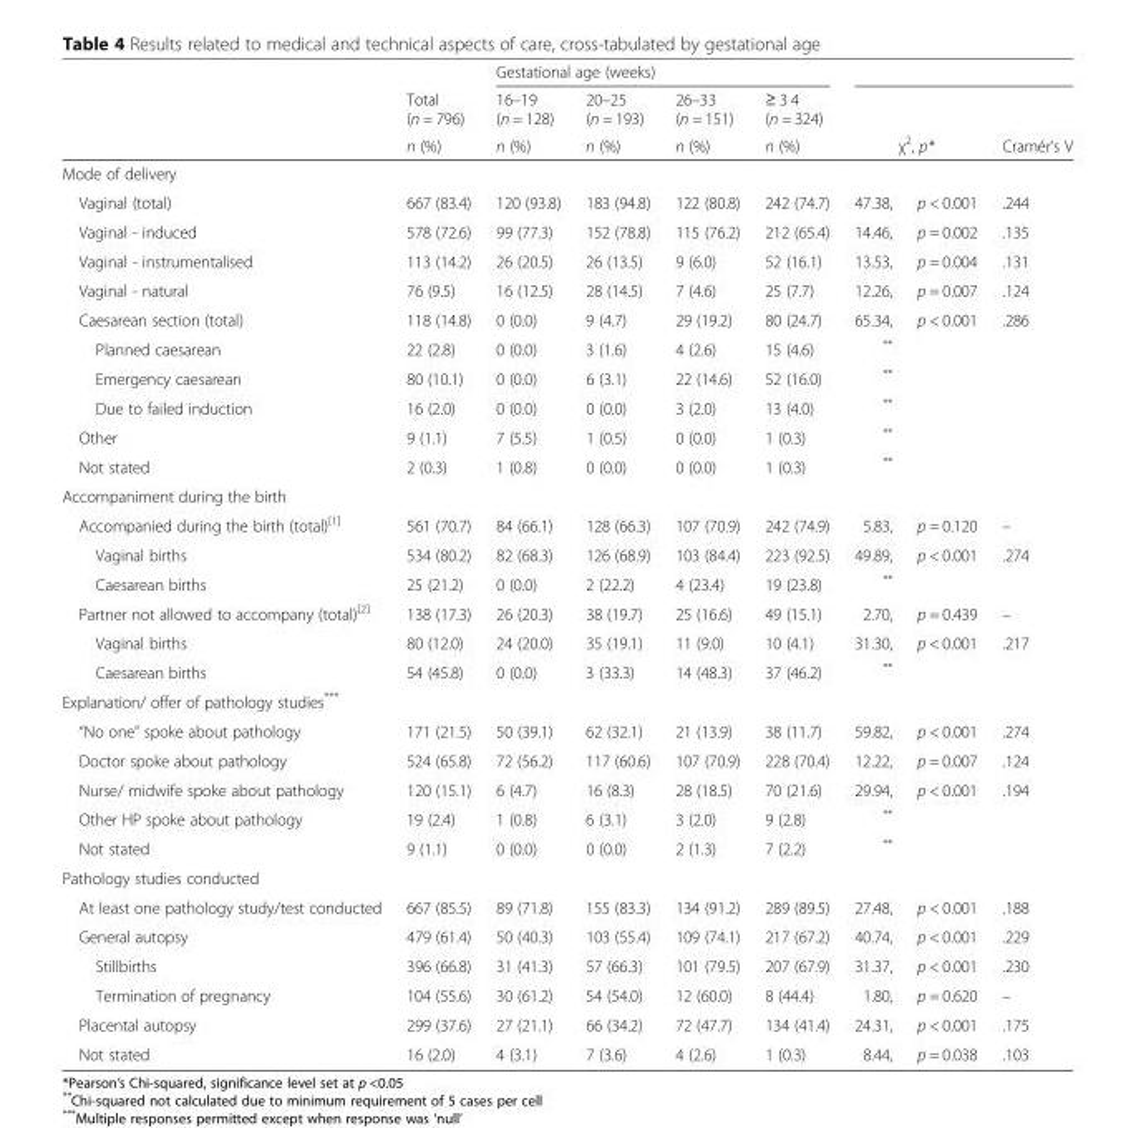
<table><thead><tr><td rowspan="3"></td><td rowspan="3">Total (n = 796) n (%)</td><td colspan="4">Gestational age (weeks)</td><td rowspan="2"></td><td rowspan="2"></td><td rowspan="3">Cramér’s V</td></tr><tr><td rowspan="2">16–19 (n = 128) n (%)</td><td rowspan="2">20–25 (n = 193) n (%)</td><td rowspan="2">26–33 (n = 151) n (%)</td><td rowspan="2">≥ 3 4 (n = 324) n (%)</td></tr><tr><td colspan="2">χ<sup>2</sup>, p*</td></tr></thead><tbody><tr><td colspan="9">Mode of delivery</td></tr><tr><td>Vaginal (total)</td><td>667 (83.4)</td><td>120 (93.8)</td><td>183 (94.8)</td><td>122 (80.8)</td><td>242 (74.7)</td><td>47.38,</td><td>p &lt; 0.001</td><td>.244</td></tr><tr><td>Vaginal - induced</td><td>578 (72.6)</td><td>99 (77.3)</td><td>152 (78.8)</td><td>115 (76.2)</td><td>212 (65.4)</td><td>14.46,</td><td>p = 0.002</td><td>.135</td></tr><tr><td>Vaginal - instrumentalised</td><td>113 (14.2)</td><td>26 (20.5)</td><td>26 (13.5)</td><td>9 (6.0)</td><td>52 (16.1)</td><td>13.53,</td><td>p = 0.004</td><td>.131</td></tr><tr><td>Vaginal - natural</td><td>76 (9.5)</td><td>16 (12.5)</td><td>28 (14.5)</td><td>7 (4.6)</td><td>25 (7.7)</td><td>12.26,</td><td>p = 0.007</td><td>.124</td></tr><tr><td>Caesarean section (total)</td><td>118 (14.8)</td><td>0 (0.0)</td><td>9 (4.7)</td><td>29 (19.2)</td><td>80 (24.7)</td><td>65.34,</td><td>p &lt; 0.001</td><td>.286</td></tr><tr><td>Planned caesarean</td><td>22 (2.8)</td><td>0 (0.0)</td><td>3 (1.6)</td><td>4 (2.6)</td><td>15 (4.6)</td><td>**</td><td></td><td></td></tr><tr><td>Emergency caesarean</td><td>80 (10.1)</td><td>0 (0.0)</td><td>6 (3.1)</td><td>22 (14.6)</td><td>52 (16.0)</td><td>**</td><td></td><td></td></tr><tr><td>Due to failed induction</td><td>16 (2.0)</td><td>0 (0.0)</td><td>0 (0.0)</td><td>3 (2.0)</td><td>13 (4.0)</td><td>**</td><td></td><td></td></tr><tr><td>Other</td><td>9 (1.1)</td><td>7 (5.5)</td><td>1 (0.5)</td><td>0 (0.0)</td><td>1 (0.3)</td><td>**</td><td></td><td></td></tr><tr><td>Not stated</td><td>2 (0.3)</td><td>1 (0.8)</td><td>0 (0.0)</td><td>0 (0.0)</td><td>1 (0.3)</td><td>**</td><td></td><td></td></tr><tr><td colspan="9">Accompaniment during the birth</td></tr><tr><td>Accompanied during the birth (total)<sup>[1]</sup></td><td>561 (70.7)</td><td>84 (66.1)</td><td>128 (66.3)</td><td>107 (70.9)</td><td>242 (74.9)</td><td>5.83,</td><td>p = 0.120</td><td>–</td></tr><tr><td>Vaginal births</td><td>534 (80.2)</td><td>82 (68.3)</td><td>126 (68.9)</td><td>103 (84.4)</td><td>223 (92.5)</td><td>49.89,</td><td>p &lt; 0.001</td><td>.274</td></tr><tr><td>Caesarean births</td><td>25 (21.2)</td><td>0 (0.0)</td><td>2 (22.2)</td><td>4 (23.4)</td><td>19 (23.8)</td><td>**</td><td></td><td></td></tr><tr><td>Partner not allowed to accompany (total)<sup>[2]</sup></td><td>138 (17.3)</td><td>26 (20.3)</td><td>38 (19.7)</td><td>25 (16.6)</td><td>49 (15.1)</td><td>2.70,</td><td>p = 0.439</td><td>–</td></tr><tr><td>Vaginal births</td><td>80 (12.0)</td><td>24 (20.0)</td><td>35 (19.1)</td><td>11 (9.0)</td><td>10 (4.1)</td><td>31.30,</td><td>p &lt; 0.001</td><td>.217</td></tr><tr><td>Caesarean births</td><td>54 (45.8)</td><td>0 (0.0)</td><td>3 (33.3)</td><td>14 (48.3)</td><td>37 (46.2)</td><td>**</td><td></td><td></td></tr><tr><td colspan="9">Explanation/ offer of pathology studies***</td></tr><tr><td>“No one” spoke about pathology</td><td>171 (21.5)</td><td>50 (39.1)</td><td>62 (32.1)</td><td>21 (13.9)</td><td>38 (11.7)</td><td>59.82,</td><td>p &lt; 0.001</td><td>.274</td></tr><tr><td>Doctor spoke about pathology</td><td>524 (65.8)</td><td>72 (56.2)</td><td>117 (60.6)</td><td>107 (70.9)</td><td>228 (70.4)</td><td>12.22,</td><td>p = 0.007</td><td>.124</td></tr><tr><td>Nurse/ midwife spoke about pathology</td><td>120 (15.1)</td><td>6 (4.7)</td><td>16 (8.3)</td><td>28 (18.5)</td><td>70 (21.6)</td><td>29.94,</td><td>p &lt; 0.001</td><td>.194</td></tr><tr><td>Other HP spoke about pathology</td><td>19 (2.4)</td><td>1 (0.8)</td><td>6 (3.1)</td><td>3 (2.0)</td><td>9 (2.8)</td><td>**</td><td></td><td></td></tr><tr><td>Not stated</td><td>9 (1.1)</td><td>0 (0.0)</td><td>0 (0.0)</td><td>2 (1.3)</td><td>7 (2.2)</td><td>**</td><td></td><td></td></tr><tr><td colspan="9">Pathology studies conducted</td></tr><tr><td>At least one pathology study/test conducted</td><td>667 (85.5)</td><td>89 (71.8)</td><td>155 (83.3)</td><td>134 (91.2)</td><td>289 (89.5)</td><td>27.48,</td><td>p &lt; 0.001</td><td>.188</td></tr><tr><td>General autopsy</td><td>479 (61.4)</td><td>50 (40.3)</td><td>103 (55.4)</td><td>109 (74.1)</td><td>217 (67.2)</td><td>40.74,</td><td>p &lt; 0.001</td><td>.229</td></tr><tr><td>Stillbirths</td><td>396 (66.8)</td><td>31 (41.3)</td><td>57 (66.3)</td><td>101 (79.5)</td><td>207 (67.9)</td><td>31.37,</td><td>p &lt; 0.001</td><td>.230</td></tr><tr><td>Termination of pregnancy</td><td>104 (55.6)</td><td>30 (61.2)</td><td>54 (54.0)</td><td>12 (60.0)</td><td>8 (44.4)</td><td>1.80,</td><td>p = 0.620</td><td>–</td></tr><tr><td>Placental autopsy</td><td>299 (37.6)</td><td>27 (21.1)</td><td>66 (34.2)</td><td>72 (47.7)</td><td>134 (41.4)</td><td>24.31,</td><td>p &lt; 0.001</td><td>.175</td></tr><tr><td>Not stated</td><td>16 (2.0)</td><td>4 (3.1)</td><td>7 (3.6)</td><td>4 (2.6)</td><td>1 (0.3)</td><td>8.44,</td><td>p = 0.038</td><td>.103</td></tr></tbody></table>